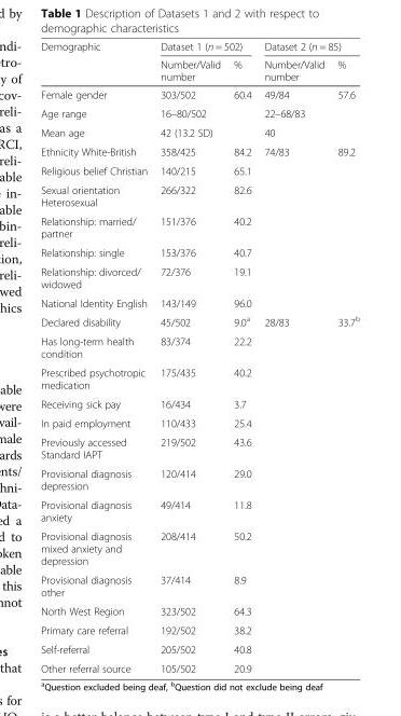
<table><thead><tr><td rowspan="2">Demographic</td><td colspan="2">Dataset 1 (n = 502)</td><td colspan="2">Dataset 2 (n = 85)</td></tr><tr><td>Number/Valid number</td><td>%</td><td>Number/Valid number</td><td>%</td></tr></thead><tbody><tr><td>Female gender</td><td>303/502</td><td>60.4</td><td>49/84</td><td>57.6</td></tr><tr><td>Age range</td><td colspan="2">16–80/502</td><td colspan="2">22–68/83</td></tr><tr><td>Mean age</td><td colspan="2">42 (13.2 SD)</td><td colspan="2">40</td></tr><tr><td>Ethnicity White-British</td><td>358/425</td><td>84.2</td><td>74/83</td><td>89.2</td></tr><tr><td>Religious belief Christian</td><td>140/215</td><td>65.1</td><td colspan="2"></td></tr><tr><td>Sexual orientation Heterosexual</td><td>266/322</td><td>82.6</td><td colspan="2"></td></tr><tr><td>Relationship: married/ partner</td><td>151/376</td><td>40.2</td><td colspan="2"></td></tr><tr><td>Relationship: single</td><td>153/376</td><td>40.7</td><td colspan="2"></td></tr><tr><td>Relationship: divorced/ widowed</td><td>72/376</td><td>19.1</td><td colspan="2"></td></tr><tr><td>National Identity English</td><td>143/149</td><td>96.0</td><td colspan="2"></td></tr><tr><td>Declared disability</td><td>45/502</td><td>9.0<sup>a</sup></td><td>28/83</td><td>33.7<sup>b</sup></td></tr><tr><td>Has long-term health condition</td><td>83/374</td><td>22.2</td><td colspan="2"></td></tr><tr><td>Prescribed psychotropic medication</td><td>175/435</td><td>40.2</td><td colspan="2"></td></tr><tr><td>Receiving sick pay</td><td>16/434</td><td>3.7</td><td colspan="2"></td></tr><tr><td>In paid employment</td><td>110/433</td><td>25.4</td><td colspan="2"></td></tr><tr><td>Previously accessed Standard IAPT</td><td>219/502</td><td>43.6</td><td colspan="2"></td></tr><tr><td>Provisional diagnosis depression</td><td>120/414</td><td>29.0</td><td colspan="2"></td></tr><tr><td>Provisional diagnosis anxiety</td><td>49/414</td><td>11.8</td><td colspan="2"></td></tr><tr><td>Provisional diagnosis mixed anxiety and depression</td><td>208/414</td><td>50.2</td><td colspan="2"></td></tr><tr><td>Provisional diagnosis other</td><td>37/414</td><td>8.9</td><td colspan="2"></td></tr><tr><td>North West Region</td><td>323/502</td><td>64.3</td><td colspan="2"></td></tr><tr><td>Primary care referral</td><td>192/502</td><td>38.2</td><td colspan="2"></td></tr><tr><td>Self-referral</td><td>205/502</td><td>40.8</td><td colspan="2"></td></tr><tr><td>Other referral source</td><td>105/502</td><td>20.9</td><td colspan="2"></td></tr></tbody></table>